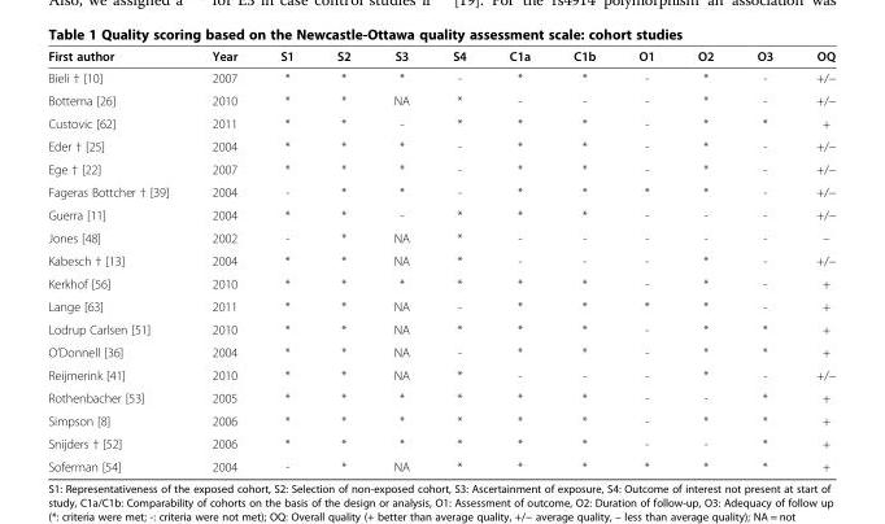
<table><thead><tr><td>First author</td><td>Year</td><td>S1</td><td>S2</td><td>S3</td><td>S4</td><td>C1a</td><td>C1b</td><td>O1</td><td>O2</td><td>O3</td><td>OQ</td></tr></thead><tbody><tr><td>Bieli † [10]</td><td>2007</td><td>*</td><td>*</td><td>*</td><td>-</td><td>*</td><td>*</td><td>-</td><td>*</td><td>-</td><td>+/−</td></tr><tr><td>Bottema [26]</td><td>2010</td><td>*</td><td>*</td><td>NA</td><td>*</td><td>-</td><td>-</td><td>-</td><td>*</td><td>-</td><td>+/−</td></tr><tr><td>Custovic [62]</td><td>2011</td><td>*</td><td>*</td><td>-</td><td>*</td><td>*</td><td>*</td><td>-</td><td>*</td><td>*</td><td>+</td></tr><tr><td>Eder † [25]</td><td>2004</td><td>*</td><td>*</td><td>*</td><td>-</td><td>*</td><td>*</td><td>-</td><td>*</td><td>-</td><td>+/−</td></tr><tr><td>Ege † [22]</td><td>2007</td><td>*</td><td>*</td><td>*</td><td>-</td><td>*</td><td>*</td><td>-</td><td>*</td><td>-</td><td>+/−</td></tr><tr><td>Fageras Bottcher † [39]</td><td>2004</td><td>-</td><td>*</td><td>*</td><td>-</td><td>*</td><td>*</td><td>*</td><td>*</td><td>-</td><td>+/−</td></tr><tr><td>Guerra [11]</td><td>2004</td><td>*</td><td>*</td><td>-</td><td>*</td><td>*</td><td>*</td><td>-</td><td>-</td><td>-</td><td>+/−</td></tr><tr><td>Jones [48]</td><td>2002</td><td>-</td><td>*</td><td>NA</td><td>*</td><td>-</td><td>-</td><td>-</td><td>-</td><td>-</td><td>–</td></tr><tr><td>Kabesch † [13]</td><td>2004</td><td>*</td><td>*</td><td>NA</td><td>*</td><td>-</td><td>-</td><td>-</td><td>*</td><td>-</td><td>+/−</td></tr><tr><td>Kerkhof [56]</td><td>2010</td><td>*</td><td>*</td><td>*</td><td>*</td><td>*</td><td>*</td><td>-</td><td>*</td><td>-</td><td>+</td></tr><tr><td>Lange [63]</td><td>2011</td><td>*</td><td>*</td><td>NA</td><td>-</td><td>*</td><td>*</td><td>*</td><td>*</td><td>-</td><td>+</td></tr><tr><td>Lodrup Carlsen [51]</td><td>2010</td><td>*</td><td>*</td><td>NA</td><td>*</td><td>*</td><td>*</td><td>-</td><td>*</td><td>*</td><td>+</td></tr><tr><td>O’Donnell [36]</td><td>2004</td><td>*</td><td>*</td><td>NA</td><td>-</td><td>*</td><td>*</td><td>-</td><td>*</td><td>*</td><td>+</td></tr><tr><td>Reijmerink [41]</td><td>2010</td><td>*</td><td>*</td><td>NA</td><td>*</td><td>-</td><td>-</td><td>-</td><td>*</td><td>-</td><td>+/−</td></tr><tr><td>Rothenbacher [53]</td><td>2005</td><td>*</td><td>*</td><td>*</td><td>*</td><td>*</td><td>*</td><td>-</td><td>-</td><td>*</td><td>+</td></tr><tr><td>Simpson [8]</td><td>2006</td><td>*</td><td>*</td><td>*</td><td>*</td><td>*</td><td>*</td><td>-</td><td>*</td><td>*</td><td>+</td></tr><tr><td>Snijders † [52]</td><td>2006</td><td>*</td><td>*</td><td>*</td><td>*</td><td>*</td><td>*</td><td>-</td><td>-</td><td>*</td><td>+</td></tr><tr><td>Soferman [54]</td><td>2004</td><td>-</td><td>*</td><td>NA</td><td>*</td><td>*</td><td>*</td><td>*</td><td>*</td><td>*</td><td>+</td></tr></tbody></table>